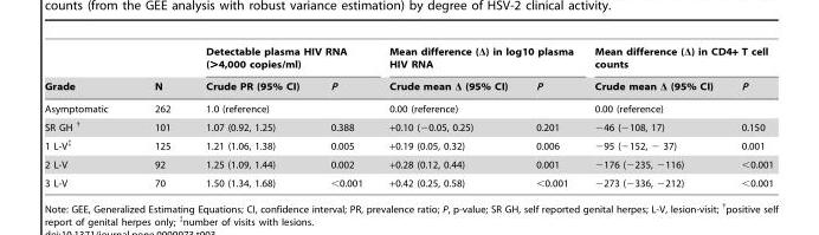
<table><thead><tr><td rowspan="2">Grade</td><td rowspan="2">N</td><td colspan="2">Detectable plasma HIV RNA (&gt;4,000 copies/ml)</td><td colspan="2">Mean difference (Δ) in log10 plasma HIV RNA</td><td colspan="2">Mean difference (Δ) in CD4+ T cell counts</td></tr><tr><td>Crude PR (95% CI)</td><td>P</td><td>Crude mean Δ (95% CI)</td><td>P</td><td>Crude mean Δ (95% CI)</td><td>P</td></tr></thead><tbody><tr><td>Asymptomatic</td><td>262</td><td>1.0 (reference)</td><td></td><td>0.00 (reference)</td><td></td><td>0.00 (reference)</td><td></td></tr><tr><td>SR GH <sup>†</sup></td><td>101</td><td>1.07 (0.92, 1.25)</td><td>0.388</td><td>+0.10 (−0.05, 0.25)</td><td>0.201</td><td>−46 (−108, 17)</td><td>0.150</td></tr><tr><td>1 L-V<sup>‡</sup></td><td>125</td><td>1.21 (1.06, 1.38)</td><td>0.005</td><td>+0.19 (0.05, 0.32)</td><td>0.006</td><td>−95 (−152, − 37)</td><td>0.001</td></tr><tr><td>2 L-V</td><td>92</td><td>1.25 (1.09, 1.44)</td><td>0.002</td><td>+0.28 (0.12, 0.44)</td><td>0.001</td><td>−176 (−235, −116)</td><td>&lt;0.001</td></tr><tr><td>3 L-V</td><td>70</td><td>1.50 (1.34, 1.68)</td><td>&lt;0.001</td><td>+0.42 (0.25, 0.58)</td><td>&lt;0.001</td><td>−273 (−336, −212)</td><td>&lt;0.001</td></tr></tbody></table>